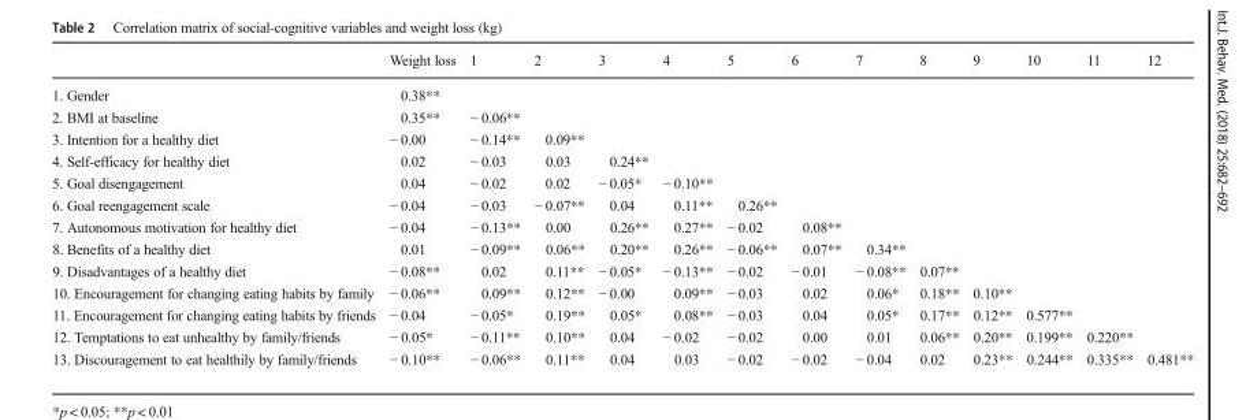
<table><thead><tr><td></td><td>Weight loss</td><td>1</td><td>2</td><td>3</td><td>4</td><td>5</td><td>6</td><td>7</td><td>8</td><td>9</td><td>10</td><td>11</td><td>12</td></tr></thead><tbody><tr><td>1. Gender</td><td>0.38**</td><td></td><td></td><td></td><td></td><td></td><td></td><td></td><td></td><td></td><td></td><td></td><td></td></tr><tr><td>2. BMI at baseline</td><td>0.35**</td><td>− 0.06**</td><td></td><td></td><td></td><td></td><td></td><td></td><td></td><td></td><td></td><td></td><td></td></tr><tr><td>3. Intention for a healthy diet</td><td>− 0.00</td><td>− 0.14**</td><td>0.09**</td><td></td><td></td><td></td><td></td><td></td><td></td><td></td><td></td><td></td><td></td></tr><tr><td>4. Self-efficacy for healthy diet</td><td>0.02</td><td>− 0.03</td><td>0.03</td><td>0.24**</td><td></td><td></td><td></td><td></td><td></td><td></td><td></td><td></td><td></td></tr><tr><td>5. Goal disengagement</td><td>0.04</td><td>− 0.02</td><td>0.02</td><td>− 0.05*</td><td>− 0.10**</td><td></td><td></td><td></td><td></td><td></td><td></td><td></td><td></td></tr><tr><td>6. Goal reengagement scale</td><td>− 0.04</td><td>− 0.03</td><td>− 0.07**</td><td>0.04</td><td>0.11**</td><td>0.26**</td><td></td><td></td><td></td><td></td><td></td><td></td><td></td></tr><tr><td>7. Autonomous motivation for healthy diet</td><td>− 0.04</td><td>− 0.13**</td><td>0.00</td><td>0.26**</td><td>0.27**</td><td>− 0.02</td><td>0.08**</td><td></td><td></td><td></td><td></td><td></td><td></td></tr><tr><td>8. Benefits of a healthy diet</td><td>0.01</td><td>− 0.09**</td><td>0.06**</td><td>0.20**</td><td>0.26**</td><td>− 0.06**</td><td>0.07**</td><td>0.34**</td><td></td><td></td><td></td><td></td><td></td></tr><tr><td>9. Disadvantages of a healthy diet</td><td>− 0.08**</td><td>0.02</td><td>0.11**</td><td>− 0.05*</td><td>− 0.13**</td><td>− 0.02</td><td>− 0.01</td><td>− 0.08**</td><td>0.07**</td><td></td><td></td><td></td><td></td></tr><tr><td>10. Encouragement for changing eating habits by family</td><td>− 0.06**</td><td>0.09**</td><td>0.12**</td><td>− 0.00</td><td>0.09**</td><td>− 0.03</td><td>0.02</td><td>0.06*</td><td>0.18**</td><td>0.10**</td><td></td><td></td><td></td></tr><tr><td>11. Encouragement for changing eating habits by friends</td><td>− 0.04</td><td>− 0.05*</td><td>0.19**</td><td>0.05*</td><td>0.08**</td><td>− 0.03</td><td>0.04</td><td>0.05*</td><td>0.17**</td><td>0.12**</td><td>0.577**</td><td></td><td></td></tr><tr><td>12. Temptations to eat unhealthy by family/friends</td><td>− 0.05*</td><td>− 0.11**</td><td>0.10**</td><td>0.04</td><td>− 0.02</td><td>− 0.02</td><td>0.00</td><td>0.01</td><td>0.06**</td><td>0.20**</td><td>0.199**</td><td>0.220**</td><td></td></tr><tr><td>13. Discouragement to eat healthily by family/friends</td><td>− 0.10**</td><td>− 0.06**</td><td>0.11**</td><td>0.04</td><td>0.03</td><td>− 0.02</td><td>− 0.02</td><td>− 0.04</td><td>0.02</td><td>0.23**</td><td>0.244**</td><td>0.335**</td><td>0.481**</td></tr></tbody></table>